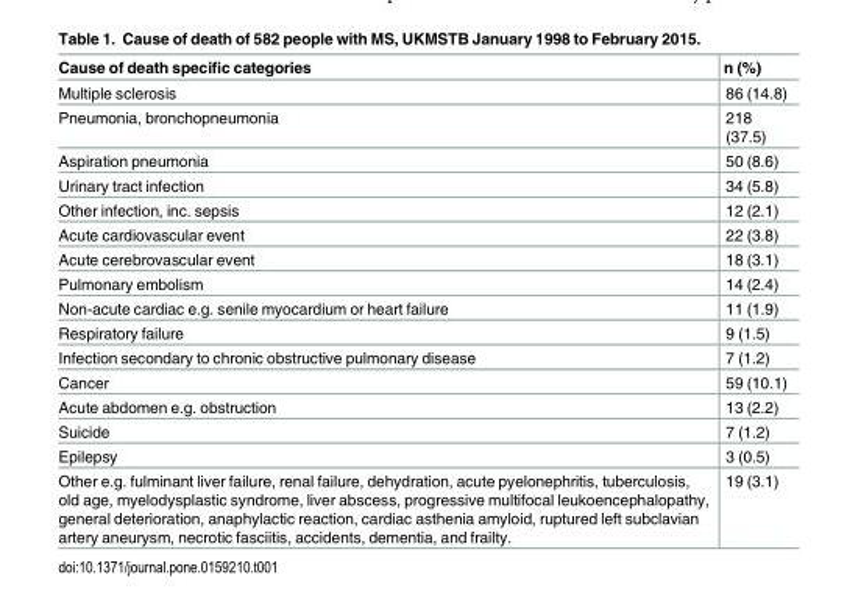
<table><thead><tr><td>Cause of death specific categories</td><td>n (%)</td></tr></thead><tbody><tr><td>Multiple sclerosis</td><td>86 (14.8)</td></tr><tr><td>Pneumonia, bronchopneumonia</td><td>218 (37.5)</td></tr><tr><td>Aspiration pneumonia</td><td>50 (8.6)</td></tr><tr><td>Urinary tract infection</td><td>34 (5.8)</td></tr><tr><td>Other infection, inc. sepsis</td><td>12 (2.1)</td></tr><tr><td>Acute cardiovascular event</td><td>22 (3.8)</td></tr><tr><td>Acute cerebrovascular event</td><td>18 (3.1)</td></tr><tr><td>Pulmonary embolism</td><td>14 (2.4)</td></tr><tr><td>Non-acute cardiac e.g. senile myocardium or heart failure</td><td>11 (1.9)</td></tr><tr><td>Respiratory failure</td><td>9 (1.5)</td></tr><tr><td>Infection secondary to chronic obstructive pulmonary disease</td><td>7 (1.2)</td></tr><tr><td>Cancer</td><td>59 (10.1)</td></tr><tr><td>Acute abdomen e.g. obstruction</td><td>13 (2.2)</td></tr><tr><td>Suicide</td><td>7 (1.2)</td></tr><tr><td>Epilepsy</td><td>3 (0.5)</td></tr><tr><td>Other e.g. fulminant liver failure, renal failure, dehydration, acute pyelonephritis, tuberculosis, old age, myelodysplastic syndrome, liver abscess, progressive multifocal leukoencephalopathy, general deterioration, anaphylactic reaction, cardiac asthenia amyloid, ruptured left subclavian artery aneurysm, necrotic fasciitis, accidents, dementia, and frailty.</td><td>19 (3.1)</td></tr></tbody></table>